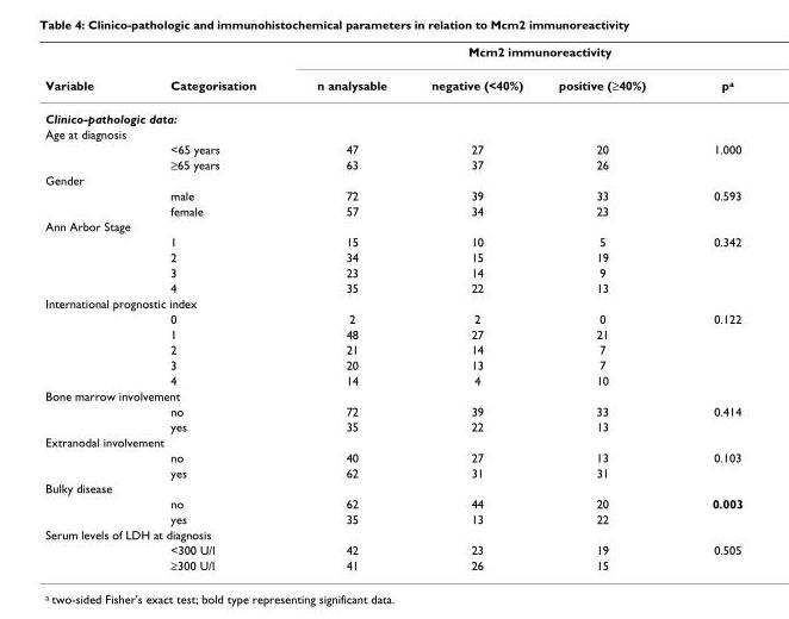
<table><thead><tr><td rowspan="2">Variable</td><td rowspan="2">Categorisation</td><td colspan="4">Mcm2 immunoreactivity</td></tr><tr><td>n analysable</td><td>negative (&lt;40%)</td><td>positive (≥40%)</td><td>pa</td></tr></thead><tbody><tr><td colspan="6">Clinico-pathologic data:</td></tr><tr><td colspan="6">Age at diagnosis</td></tr><tr><td></td><td>&lt;65 years</td><td>47</td><td>27</td><td>20</td><td>1.000</td></tr><tr><td></td><td>≥65 years</td><td>63</td><td>37</td><td>26</td><td></td></tr><tr><td colspan="6">Gender</td></tr><tr><td></td><td>male</td><td>72</td><td>39</td><td>33</td><td>0.593</td></tr><tr><td></td><td>female</td><td>57</td><td>34</td><td>23</td><td></td></tr><tr><td colspan="6">Ann Arbor Stage</td></tr><tr><td></td><td>1</td><td>15</td><td>10</td><td>5</td><td>0.342</td></tr><tr><td></td><td>2</td><td>34</td><td>15</td><td>19</td><td></td></tr><tr><td></td><td>3</td><td>23</td><td>14</td><td>9</td><td></td></tr><tr><td></td><td>4</td><td>35</td><td>22</td><td>13</td><td></td></tr><tr><td colspan="6">International prognostic index</td></tr><tr><td></td><td>0</td><td>2</td><td>2</td><td>0</td><td>0.122</td></tr><tr><td></td><td>1</td><td>48</td><td>27</td><td>21</td><td></td></tr><tr><td></td><td>2</td><td>21</td><td>14</td><td>7</td><td></td></tr><tr><td></td><td>3</td><td>20</td><td>13</td><td>7</td><td></td></tr><tr><td></td><td>4</td><td>14</td><td>4</td><td>10</td><td></td></tr><tr><td colspan="6">Bone marrow involvement</td></tr><tr><td></td><td>no</td><td>72</td><td>39</td><td>33</td><td>0.414</td></tr><tr><td></td><td>yes</td><td>35</td><td>22</td><td>13</td><td></td></tr><tr><td colspan="6">Extranodal involvement</td></tr><tr><td></td><td>no</td><td>40</td><td>27</td><td>13</td><td>0.103</td></tr><tr><td></td><td>yes</td><td>62</td><td>31</td><td>31</td><td></td></tr><tr><td colspan="6">Bulky disease</td></tr><tr><td></td><td>no</td><td>62</td><td>44</td><td>20</td><td>0.003</td></tr><tr><td></td><td>yes</td><td>35</td><td>13</td><td>22</td><td></td></tr><tr><td colspan="6">Serum levels of LDH at diagnosis</td></tr><tr><td></td><td>&lt;300 U/l</td><td>42</td><td>23</td><td>19</td><td>0.505</td></tr><tr><td></td><td>≥300 U/l</td><td>41</td><td>26</td><td>15</td><td></td></tr></tbody></table>